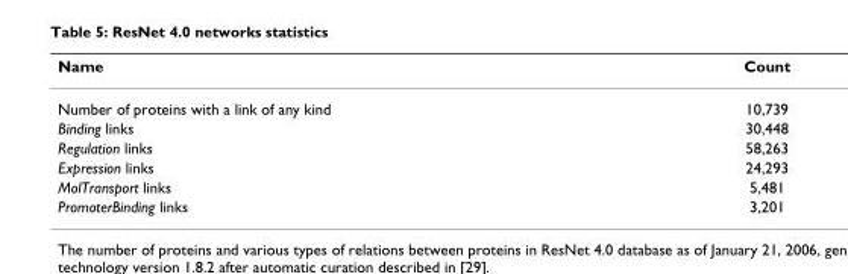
<table><thead><tr><td>Name</td><td>Count</td></tr></thead><tbody><tr><td>Number of proteins with a link of any kind</td><td>10,739</td></tr><tr><td>Binding links</td><td>30,448</td></tr><tr><td>Regulation links</td><td>58,263</td></tr><tr><td>Expression links</td><td>24,293</td></tr><tr><td>MolTransport links</td><td>5,481</td></tr><tr><td>PromoterBinding links</td><td>3,201</td></tr></tbody></table>